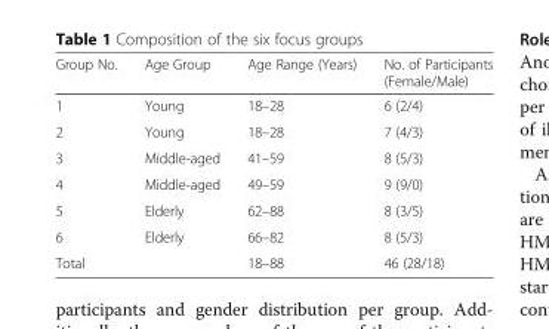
<table><thead><tr><td>Group No.</td><td>Age Group</td><td>Age Range (Years)</td><td>No. of Participants (Female/Male)</td></tr></thead><tbody><tr><td>1</td><td>Young</td><td>18–28</td><td>6 (2/4)</td></tr><tr><td>2</td><td>Young</td><td>18–28</td><td>7 (4/3)</td></tr><tr><td>3</td><td>Middle-aged</td><td>41–59</td><td>8 (5/3)</td></tr><tr><td>4</td><td>Middle-aged</td><td>49–59</td><td>9 (9/0)</td></tr><tr><td>5</td><td>Elderly</td><td>62–88</td><td>8 (3/5)</td></tr><tr><td>6</td><td>Elderly</td><td>66–82</td><td>8 (5/3)</td></tr><tr><td>Total</td><td></td><td>18–88</td><td>46 (28/18)</td></tr></tbody></table>